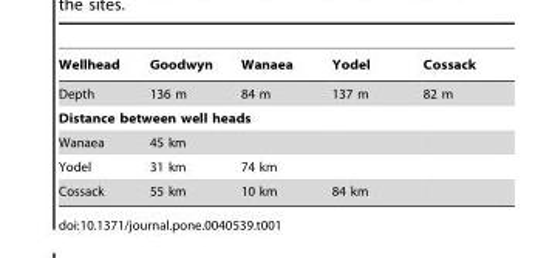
<table><thead><tr><td>Wellhead</td><td>Goodwyn</td><td>Wanaea</td><td>Yodel</td><td>Cossack</td></tr></thead><tbody><tr><td>Depth</td><td>136 m</td><td>84 m</td><td>137 m</td><td>82 m</td></tr><tr><td colspan="5">Distance between well heads</td></tr><tr><td>Wanaea</td><td>45 km</td><td></td><td></td><td></td></tr><tr><td>Yodel</td><td>31 km</td><td>74 km</td><td></td><td></td></tr><tr><td>Cossack</td><td>55 km</td><td>10 km</td><td>84 km</td><td></td></tr></tbody></table>